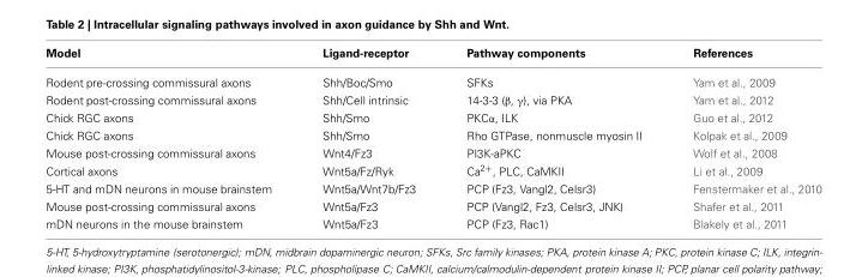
<table><thead><tr><td>Model</td><td>Ligand-receptor</td><td>Pathway components</td><td>References</td></tr></thead><tbody><tr><td>Rodent pre-crossing commissural axons</td><td>Shh/Boc/Smo</td><td>SFKs</td><td>Yam et al., 2009</td></tr><tr><td>Rodent post-crossing commissural axons</td><td>Shh/Cell intrinsic</td><td>14-3-3 (β, γ), via PKA</td><td>Yam et al., 2012</td></tr><tr><td>Chick RGC axons</td><td>Shh/Smo</td><td>PKCα, ILK</td><td>Guo et al., 2012</td></tr><tr><td>Chick RGC axons</td><td>Shh/Smo</td><td>Rho GTPase, nonmuscle myosin II</td><td>Kolpak et al., 2009</td></tr><tr><td>Mouse post-crossing commissural axons</td><td>Wnt4/Fz3</td><td>PI3K-aPKC</td><td>Wolf et al., 2008</td></tr><tr><td>Cortical axons</td><td>Wnt5a/Fz/Ryk</td><td>Ca<sup>2+</sup>, PLC, CaMKII</td><td>Li et al., 2009</td></tr><tr><td>5-HT and mDN neurons in mouse brainstem</td><td>Wnt5a/Wnt7b/Fz3</td><td>PCP (Fz3, Vangl2, Celsr3)</td><td>Fenstermaker et al., 2010</td></tr><tr><td>Mouse post-crossing commissural axons</td><td>Wnt5a/Fz3</td><td>PCP (Vangl2, Fz3, Celsr3, JNK)</td><td>Shafer et al., 2011</td></tr><tr><td>mDN neurons in the mouse brainstem</td><td>Wnt5a/Fz3</td><td>PCP (Fz3, Rac1)</td><td>Blakely et al., 2011</td></tr></tbody></table>